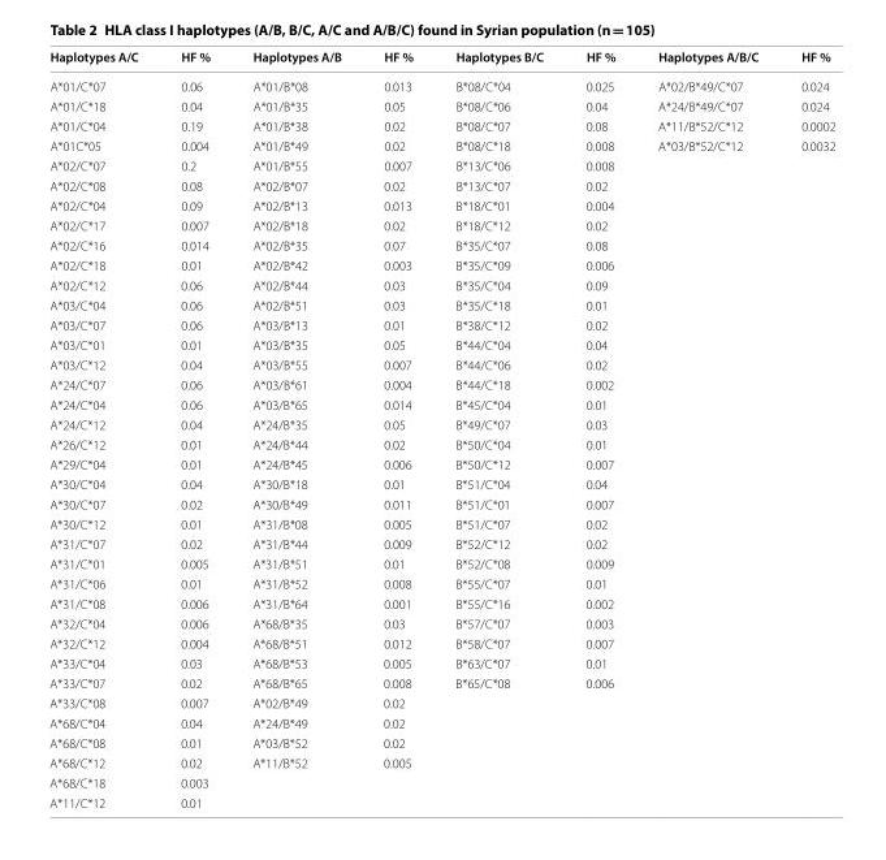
<table><thead><tr><td>Haplotypes A/C</td><td>HF %</td><td>Haplotypes A/B</td><td>HF %</td><td>Haplotypes B/C</td><td>HF %</td><td>Haplotypes A/B/C</td><td>HF %</td></tr></thead><tbody><tr><td>A*01/C*07</td><td>0.06</td><td>A*01/B*08</td><td>0.013</td><td>B*08/C*04</td><td>0.025</td><td>A*02/B*49/C*07</td><td>0.024</td></tr><tr><td>A*01/C*18</td><td>0.04</td><td>A*01/B*35</td><td>0.05</td><td>B*08/C*06</td><td>0.04</td><td>A*24/B*49/C*07</td><td>0.024</td></tr><tr><td>A*01/C*04</td><td>0.19</td><td>A*01/B*38</td><td>0.02</td><td>B*08/C*07</td><td>0.08</td><td>A*11/B*52/C*12</td><td>0.0002</td></tr><tr><td>A*01C*05</td><td>0.004</td><td>A*01/B*49</td><td>0.02</td><td>B*08/C*18</td><td>0.008</td><td>A*03/B*52/C*12</td><td>0.0032</td></tr><tr><td>A*02/C*07</td><td>0.2</td><td>A*01/B*55</td><td>0.007</td><td>B*13/C*06</td><td>0.008</td><td></td><td></td></tr><tr><td>A*02/C*08</td><td>0.08</td><td>A*02/B*07</td><td>0.02</td><td>B*13/C*07</td><td>0.02</td><td></td><td></td></tr><tr><td>A*02/C*04</td><td>0.09</td><td>A*02/B*13</td><td>0.013</td><td>B*18/C*01</td><td>0.004</td><td></td><td></td></tr><tr><td>A*02/C*17</td><td>0.007</td><td>A*02/B*18</td><td>0.02</td><td>B*18/C*12</td><td>0.02</td><td></td><td></td></tr><tr><td>A*02/C*16</td><td>0.014</td><td>A*02/B*35</td><td>0.07</td><td>B*35/C*07</td><td>0.08</td><td></td><td></td></tr><tr><td>A*02/C*18</td><td>0.01</td><td>A*02/B*42</td><td>0.003</td><td>B*35/C*09</td><td>0.006</td><td></td><td></td></tr><tr><td>A*02/C*12</td><td>0.06</td><td>A*02/B*44</td><td>0.03</td><td>B*35/C*04</td><td>0.09</td><td></td><td></td></tr><tr><td>A*03/C*04</td><td>0.06</td><td>A*02/B*51</td><td>0.03</td><td>B*35/C*18</td><td>0.01</td><td></td><td></td></tr><tr><td>A*03/C*07</td><td>0.06</td><td>A*03/B*13</td><td>0.01</td><td>B*38/C*12</td><td>0.02</td><td></td><td></td></tr><tr><td>A*03/C*01</td><td>0.01</td><td>A*03/B*35</td><td>0.05</td><td>B*44/C*04</td><td>0.04</td><td></td><td></td></tr><tr><td>A*03/C*12</td><td>0.04</td><td>A*03/B*55</td><td>0.007</td><td>B*44/C*06</td><td>0.02</td><td></td><td></td></tr><tr><td>A*24/C*07</td><td>0.06</td><td>A*03/B*61</td><td>0.004</td><td>B*44/C*18</td><td>0.002</td><td></td><td></td></tr><tr><td>A*24/C*04</td><td>0.06</td><td>A*03/B*65</td><td>0.014</td><td>B*45/C*04</td><td>0.01</td><td></td><td></td></tr><tr><td>A*24/C*12</td><td>0.04</td><td>A*24/B*35</td><td>0.05</td><td>B*49/C*07</td><td>0.03</td><td></td><td></td></tr><tr><td>A*26/C*12</td><td>0.01</td><td>A*24/B*44</td><td>0.02</td><td>B*50/C*04</td><td>0.01</td><td></td><td></td></tr><tr><td>A*29/C*04</td><td>0.01</td><td>A*24/B*45</td><td>0.006</td><td>B*50/C*12</td><td>0.007</td><td></td><td></td></tr><tr><td>A*30/C*04</td><td>0.04</td><td>A*30/B*18</td><td>0.01</td><td>B*51/C*04</td><td>0.04</td><td></td><td></td></tr><tr><td>A*30/C*07</td><td>0.02</td><td>A*30/B*49</td><td>0.011</td><td>B*51/C*01</td><td>0.007</td><td></td><td></td></tr><tr><td>A*30/C*12</td><td>0.01</td><td>A*31/B*08</td><td>0.005</td><td>B*51/C*07</td><td>0.02</td><td></td><td></td></tr><tr><td>A*31/C*07</td><td>0.02</td><td>A*31/B*44</td><td>0.009</td><td>B*52/C*12</td><td>0.02</td><td></td><td></td></tr><tr><td>A*31/C*01</td><td>0.005</td><td>A*31/B*51</td><td>0.01</td><td>B*52/C*08</td><td>0.009</td><td></td><td></td></tr><tr><td>A*31/C*06</td><td>0.01</td><td>A*31/B*52</td><td>0.008</td><td>B*55/C*07</td><td>0.01</td><td></td><td></td></tr><tr><td>A*31/C*08</td><td>0.006</td><td>A*31/B*64</td><td>0.001</td><td>B*55/C*16</td><td>0.002</td><td></td><td></td></tr><tr><td>A*32/C*04</td><td>0.006</td><td>A*68/B*35</td><td>0.03</td><td>B*57/C*07</td><td>0.003</td><td></td><td></td></tr><tr><td>A*32/C*12</td><td>0.004</td><td>A*68/B*51</td><td>0.012</td><td>B*58/C*07</td><td>0.007</td><td></td><td></td></tr><tr><td>A*33/C*04</td><td>0.03</td><td>A*68/B*53</td><td>0.005</td><td>B*63/C*07</td><td>0.01</td><td></td><td></td></tr><tr><td>A*33/C*07</td><td>0.02</td><td>A*68/B*65</td><td>0.008</td><td>B*65/C*08</td><td>0.006</td><td></td><td></td></tr><tr><td>A*33/C*08</td><td>0.007</td><td>A*02/B*49</td><td>0.02</td><td></td><td></td><td></td><td></td></tr><tr><td>A*68/C*04</td><td>0.04</td><td>A*24/B*49</td><td>0.02</td><td></td><td></td><td></td><td></td></tr><tr><td>A*68/C*08</td><td>0.01</td><td>A*03/B*52</td><td>0.02</td><td></td><td></td><td></td><td></td></tr><tr><td>A*68/C*12</td><td>0.02</td><td>A*11/B*52</td><td>0.005</td><td></td><td></td><td></td><td></td></tr><tr><td>A*68/C*18</td><td>0.003</td><td></td><td></td><td></td><td></td><td></td><td></td></tr><tr><td>A*11/C*12</td><td>0.01</td><td></td><td></td><td></td><td></td><td></td><td></td></tr></tbody></table>